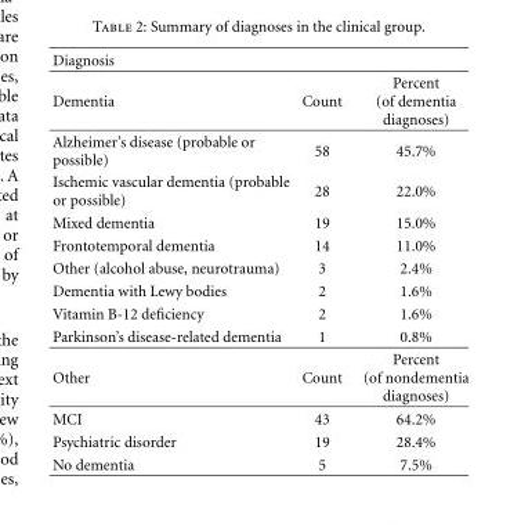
<table><thead><tr><td rowspan="2">Diagnosis Dementia</td><td rowspan="2">Count</td><td rowspan="2">Percent (of dementia diagnoses)</td></tr><tr></tr></thead><tbody><tr><td>Alzheimer’s disease (probable or possible)</td><td>58</td><td>45.7%</td></tr><tr><td>Ischemic vascular dementia (probable or possible)</td><td>28</td><td>22.0%</td></tr><tr><td>Mixed dementia</td><td>19</td><td>15.0%</td></tr><tr><td>Frontotemporal dementia</td><td>14</td><td>11.0%</td></tr><tr><td>Other (alcohol abuse, neurotrauma)</td><td>3</td><td>2.4%</td></tr><tr><td>Dementia with Lewy bodies</td><td>2</td><td>1.6%</td></tr><tr><td>Vitamin B-12 deficiency</td><td>2</td><td>1.6%</td></tr><tr><td>Parkinson’s disease-related dementia</td><td>1</td><td>0.8%</td></tr><tr><td>Other</td><td>Count</td><td>Percent (of nondementia diagnoses)</td></tr><tr><td>MCI</td><td>43</td><td>64.2%</td></tr><tr><td>Psychiatric disorder</td><td>19</td><td>28.4%</td></tr><tr><td>No dementia</td><td>5</td><td>7.5%</td></tr></tbody></table>